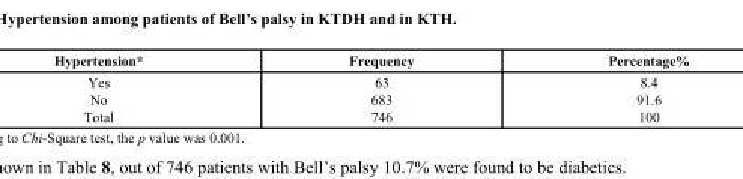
<table><thead><tr><td>Hypertension*</td><td>Frequency</td><td>Percentage%</td></tr></thead><tbody><tr><td>Yes No Total</td><td>63 683 746</td><td>8.4 91.6 100</td></tr></tbody></table>